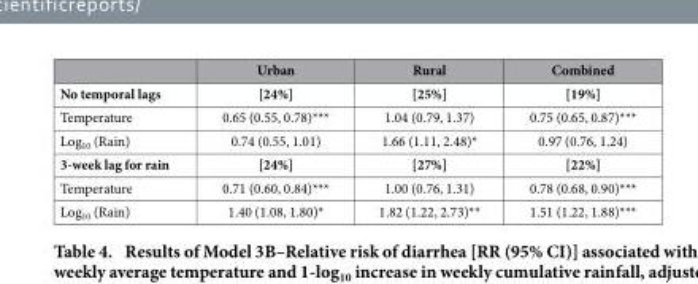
<table><thead><tr><td></td><td>Urban</td><td>Rural</td><td>Combined</td></tr></thead><tbody><tr><td>No temporal lags</td><td>[24%]</td><td>[25%]</td><td>[19%]</td></tr><tr><td>Temperature</td><td>0.65 (0.55, 0.78)***</td><td>1.04 (0.79, 1.37)</td><td>0.75 (0.65, 0.87)***</td></tr><tr><td>Log<sub>10</sub> (Rain)</td><td>0.74 (0.55, 1.01)</td><td>1.66 (1.11, 2.48)*</td><td>0.97 (0.76, 1.24)</td></tr><tr><td>3-week lag for rain</td><td>[24%]</td><td>[27%]</td><td>[22%]</td></tr><tr><td>Temperature</td><td>0.71 (0.60, 0.84)***</td><td>1.00 (0.76, 1.31)</td><td>0.78 (0.68, 0.90)***</td></tr><tr><td>Log<sub>10</sub> (Rain)</td><td>1.40 (1.08, 1.80)*</td><td>1.82 (1.22, 2.73)**</td><td>1.51 (1.22, 1.88)***</td></tr></tbody></table>